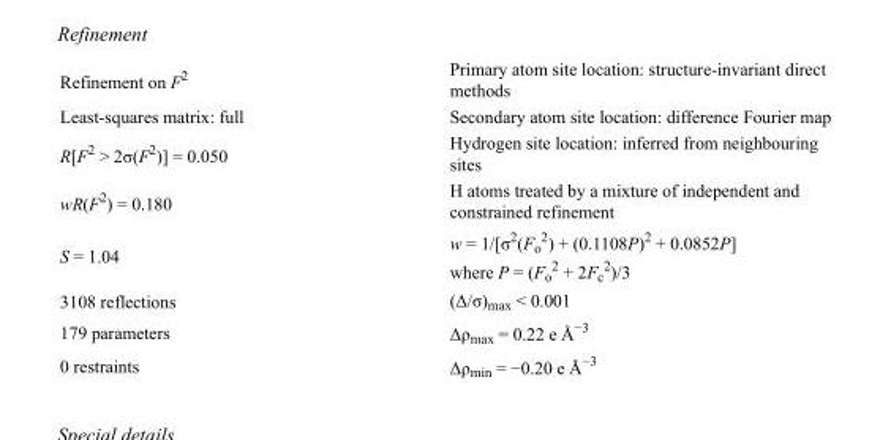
<table><tbody><tr><td>Refinement on F<sup>2</sup></td><td>Primary atom site location: structure-invariant direct methods</td></tr><tr><td>Least-squares matrix: full</td><td>Secondary atom site location: difference Fourier map</td></tr><tr><td>R[F<sup>2</sup> &gt; 2σ(F<sup>2</sup>)] = 0.050</td><td>Hydrogen site location: inferred from neighbouring sites</td></tr><tr><td>wR(F<sup>2</sup>) = 0.180</td><td>H atoms treated by a mixture of independent and constrained refinement</td></tr><tr><td>S = 1.04</td><td>w = 1/[σ<sup>2</sup>(F<sub>o</sub> <sup>2</sup>) + (0.1108P)<sup>2</sup> + 0.0852P] where P = (F<sub>o</sub> <sup>2</sup> + 2F<sub>c</sub> <sup>2</sup>)/3</td></tr><tr><td>3108 reflections</td><td>(Δ/σ)<sub>max</sub> &lt; 0.001</td></tr><tr><td>179 parameters</td><td>Δρ<sub>max</sub> = 0.22 e Å<sup>−3</sup></td></tr><tr><td>0 restraints</td><td>Δρ<sub>min</sub> = −0.20 e Å<sup>−3</sup></td></tr></tbody></table>